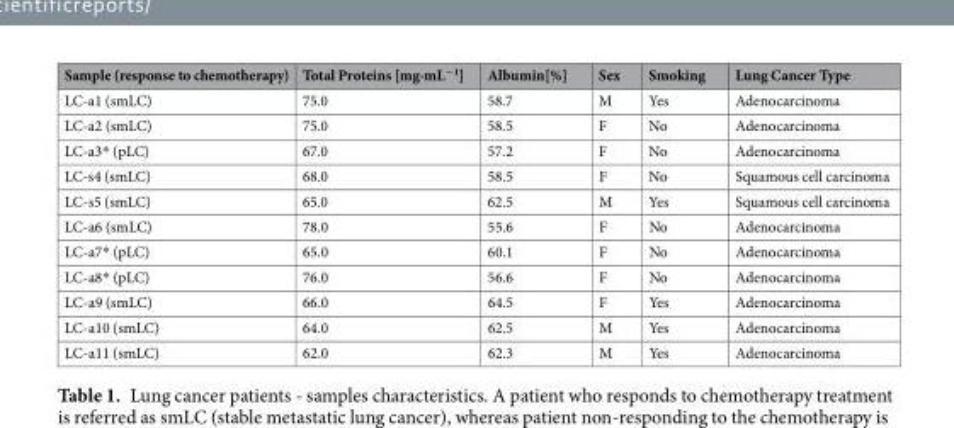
<table><thead><tr><td>Sample (response to chemotherapy)</td><td>Total Proteins [mg·mL<sup>−1</sup>]</td><td>Albumin[%]</td><td>Sex</td><td>Smoking</td><td>Lung Cancer Type</td></tr></thead><tbody><tr><td>LC-a1 (smLC)</td><td>75.0</td><td>58.7</td><td>M</td><td>Yes</td><td>Adenocarcinoma</td></tr><tr><td>LC-a2 (smLC)</td><td>75.0</td><td>58.5</td><td>F</td><td>No</td><td>Adenocarcinoma</td></tr><tr><td>LC-a3* (pLC)</td><td>67.0</td><td>57.2</td><td>F</td><td>No</td><td>Adenocarcinoma</td></tr><tr><td>LC-s4 (smLC)</td><td>68.0</td><td>58.5</td><td>F</td><td>No</td><td>Squamous cell carcinoma</td></tr><tr><td>LC-s5 (smLC)</td><td>65.0</td><td>62.5</td><td>M</td><td>Yes</td><td>Squamous cell carcinoma</td></tr><tr><td>LC-a6 (smLC)</td><td>78.0</td><td>55.6</td><td>F</td><td>No</td><td>Adenocarcinoma</td></tr><tr><td>LC-a7* (pLC)</td><td>65.0</td><td>60.1</td><td>F</td><td>No</td><td>Adenocarcinoma</td></tr><tr><td>LC-a8* (pLC)</td><td>76.0</td><td>56.6</td><td>F</td><td>No</td><td>Adenocarcinoma</td></tr><tr><td>LC-a9 (smLC)</td><td>66.0</td><td>64.5</td><td>F</td><td>Yes</td><td>Adenocarcinoma</td></tr><tr><td>LC-a10 (smLC)</td><td>64.0</td><td>62.5</td><td>M</td><td>Yes</td><td>Adenocarcinoma</td></tr><tr><td>LC-a11 (smLC)</td><td>62.0</td><td>62.3</td><td>M</td><td>Yes</td><td>Adenocarcinoma</td></tr></tbody></table>